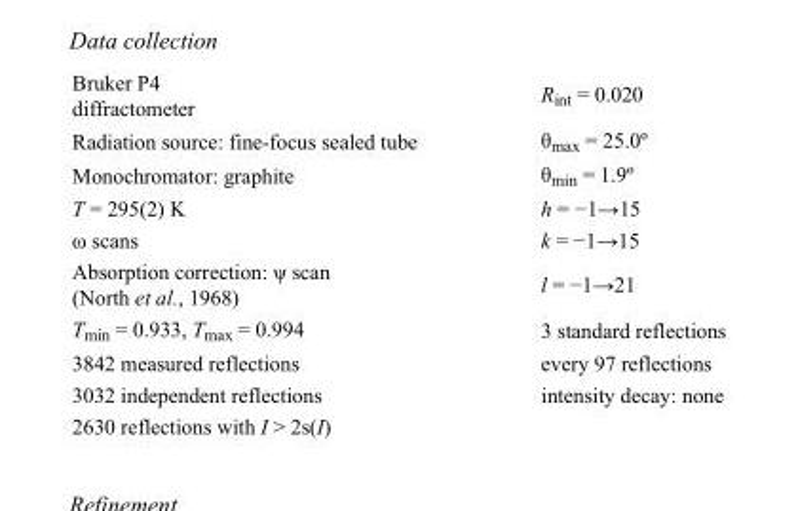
<table><tbody><tr><td>Bruker P4 diffractometer</td><td>R<sub>int</sub> = 0.020</td></tr><tr><td>Radiation source: fine-focus sealed tube</td><td>θ<sub>max</sub> = 25.0º</td></tr><tr><td>Monochromator: graphite</td><td>θ<sub>min</sub> = 1.9º</td></tr><tr><td>T = 295(2) K</td><td>h = −1→15</td></tr><tr><td>ω scans</td><td>k = −1→15</td></tr><tr><td>Absorption correction: ψ scan (North et al., 1968)</td><td>l = −1→21</td></tr><tr><td>T<sub>min</sub> = 0.933, T<sub>max</sub> = 0.994</td><td>3 standard reflections</td></tr><tr><td>3842 measured reflections</td><td>every 97 reflections</td></tr><tr><td>3032 independent reflections</td><td>intensity decay: none</td></tr><tr><td>2630 reflections with I &gt; 2s(I)</td><td></td></tr></tbody></table>